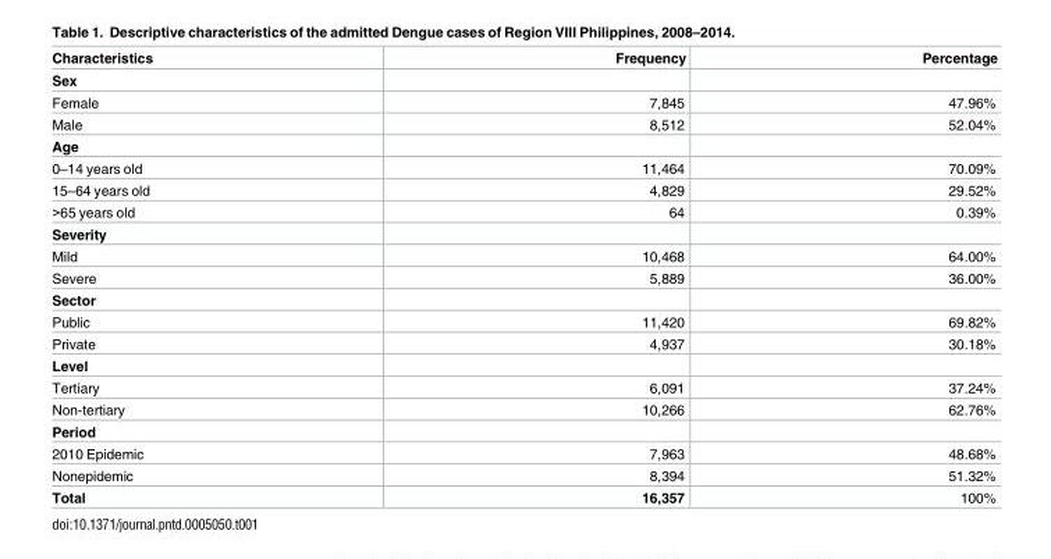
<table><thead><tr><td>Characteristics</td><td>Frequency</td><td>Percentage</td></tr></thead><tbody><tr><td colspan="3">Sex</td></tr><tr><td>Female</td><td>7,845</td><td>47.96%</td></tr><tr><td>Male</td><td>8,512</td><td>52.04%</td></tr><tr><td colspan="3">Age</td></tr><tr><td>0–14 years old</td><td>11,464</td><td>70.09%</td></tr><tr><td>15–64 years old</td><td>4,829</td><td>29.52%</td></tr><tr><td>&gt;65 years old</td><td>64</td><td>0.39%</td></tr><tr><td colspan="3">Severity</td></tr><tr><td>Mild</td><td>10,468</td><td>64.00%</td></tr><tr><td>Severe</td><td>5,889</td><td>36.00%</td></tr><tr><td colspan="3">Sector</td></tr><tr><td>Public</td><td>11,420</td><td>69.82%</td></tr><tr><td>Private</td><td>4,937</td><td>30.18%</td></tr><tr><td colspan="3">Level</td></tr><tr><td>Tertiary</td><td>6,091</td><td>37.24%</td></tr><tr><td>Non-tertiary</td><td>10,266</td><td>62.76%</td></tr><tr><td colspan="3">Period</td></tr><tr><td>2010 Epidemic</td><td>7,963</td><td>48.68%</td></tr><tr><td>Nonepidemic</td><td>8,394</td><td>51.32%</td></tr><tr><td>Total</td><td>16,357</td><td>100%</td></tr></tbody></table>